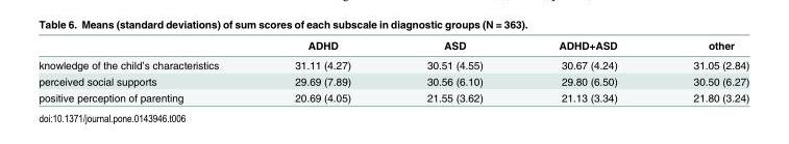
<table><thead><tr><td></td><td>ADHD</td><td>ASD</td><td>ADHD+ASD</td><td>other</td></tr></thead><tbody><tr><td>knowledge of the child’s characteristics</td><td>31.11 (4.27)</td><td>30.51 (4.55)</td><td>30.67 (4.24)</td><td>31.05 (2.84)</td></tr><tr><td>perceived social supports</td><td>29.69 (7.89)</td><td>30.56 (6.10)</td><td>29.80 (6.50)</td><td>30.50 (6.27)</td></tr><tr><td>positive perception of parenting</td><td>20.69 (4.05)</td><td>21.55 (3.62)</td><td>21.13 (3.34)</td><td>21.80 (3.24)</td></tr></tbody></table>